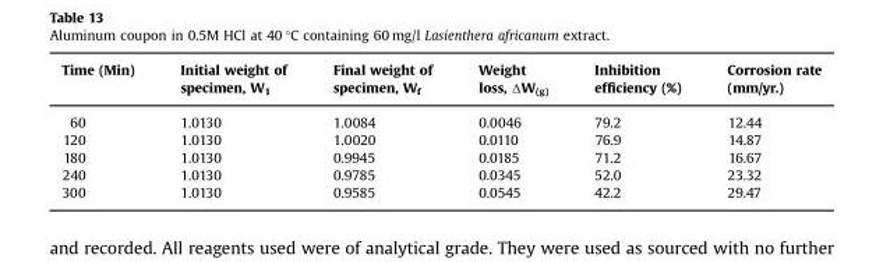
<table><thead><tr><td>Time (Min)</td><td>Initial weight of specimen, W<sub>1</sub></td><td>Final weight of specimen, W<sub>f</sub></td><td>Weight loss, ΔW(g)</td><td>Inhibition efficiency (%)</td><td>Corrosion rate (mm/yr.)</td></tr></thead><tbody><tr><td>60</td><td>1.0130</td><td>1.0084</td><td>0.0046</td><td>79.2</td><td>12.44</td></tr><tr><td>120</td><td>1.0130</td><td>1.0020</td><td>0.0110</td><td>76.9</td><td>14.87</td></tr><tr><td>180</td><td>1.0130</td><td>0.9945</td><td>0.0185</td><td>71.2</td><td>16.67</td></tr><tr><td>240</td><td>1.0130</td><td>0.9785</td><td>0.0345</td><td>52.0</td><td>23.32</td></tr><tr><td>300</td><td>1.0130</td><td>0.9585</td><td>0.0545</td><td>42.2</td><td>29.47</td></tr></tbody></table>